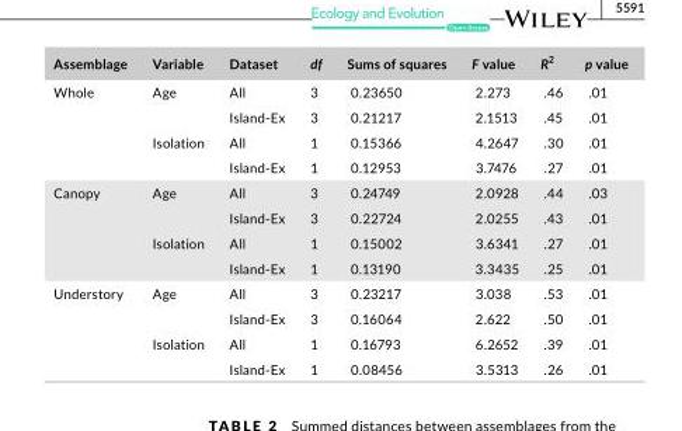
<table><thead><tr><td>Assemblage</td><td>Variable</td><td>Dataset</td><td>df</td><td>Sums of squares</td><td>F value</td><td>R<sup>2</sup></td><td>p value</td></tr></thead><tbody><tr><td rowspan="4">Whole</td><td rowspan="2">Age</td><td>All</td><td>3</td><td>0.23650</td><td>2.273</td><td>.46</td><td>.01</td></tr><tr><td>Island- Ex</td><td>3</td><td>0.21217</td><td>2.1513</td><td>.45</td><td>.01</td></tr><tr><td rowspan="2">Isolation</td><td>All</td><td>1</td><td>0.15366</td><td>4.2647</td><td>.30</td><td>.01</td></tr><tr><td>Island- Ex</td><td>1</td><td>0.12953</td><td>3.7476</td><td>.27</td><td>.01</td></tr><tr><td rowspan="4">Canopy</td><td rowspan="2">Age</td><td>All</td><td>3</td><td>0.24749</td><td>2.0928</td><td>.44</td><td>.03</td></tr><tr><td>Island- Ex</td><td>3</td><td>0.22724</td><td>2.0255</td><td>.43</td><td>.01</td></tr><tr><td rowspan="2">Isolation</td><td>All</td><td>1</td><td>0.15002</td><td>3.6341</td><td>.27</td><td>.01</td></tr><tr><td>Island- Ex</td><td>1</td><td>0.13190</td><td>3.3435</td><td>.25</td><td>.01</td></tr><tr><td rowspan="4">Understory</td><td rowspan="2">Age</td><td>All</td><td>3</td><td>0.23217</td><td>3.038</td><td>.53</td><td>.01</td></tr><tr><td>Island- Ex</td><td>3</td><td>0.16064</td><td>2.622</td><td>.50</td><td>.01</td></tr><tr><td rowspan="2">Isolation</td><td>All</td><td>1</td><td>0.16793</td><td>6.2652</td><td>.39</td><td>.01</td></tr><tr><td>Island- Ex</td><td>1</td><td>0.08456</td><td>3.5313</td><td>.26</td><td>.01</td></tr></tbody></table>